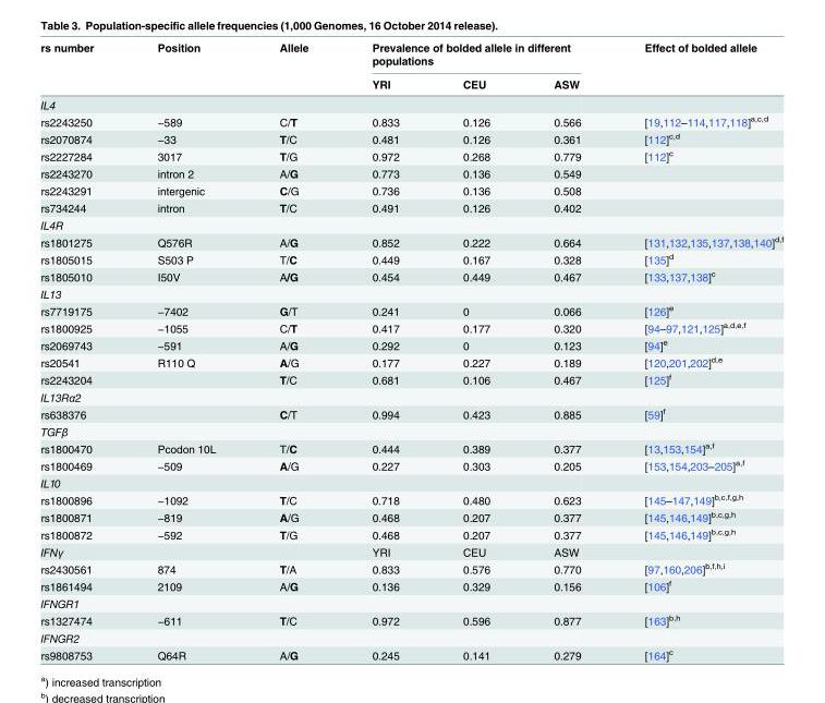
<table><thead><tr><td rowspan="2">rs number</td><td rowspan="2">Position</td><td rowspan="2">Allele</td><td colspan="3">Prevalence of bolded allele in different populations</td><td rowspan="2">Effect of bolded allele</td></tr><tr><td>YRI</td><td>CEU</td><td>ASW</td></tr></thead><tbody><tr><td colspan="7">IL4</td></tr><tr><td>rs2243250</td><td>−589</td><td>C/T</td><td>0.833</td><td>0.126</td><td>0.566</td><td>[19,112–114,117,118]<sup>a,c,d</sup></td></tr><tr><td>rs2070874</td><td>−33</td><td>T/C</td><td>0.481</td><td>0.126</td><td>0.361</td><td>[112]<sup>c,d</sup></td></tr><tr><td>rs2227284</td><td>3017</td><td>T/G</td><td>0.972</td><td>0.268</td><td>0.779</td><td>[112]<sup>c</sup></td></tr><tr><td>rs2243270</td><td>intron 2</td><td>A/G</td><td>0.773</td><td>0.136</td><td>0.549</td><td></td></tr><tr><td>rs2243291</td><td>intergenic</td><td>C/G</td><td>0.736</td><td>0.136</td><td>0.508</td><td></td></tr><tr><td>rs734244</td><td>intron</td><td>T/C</td><td>0.491</td><td>0.126</td><td>0.402</td><td></td></tr><tr><td colspan="7">IL4R</td></tr><tr><td>rs1801275</td><td>Q576R</td><td>A/G</td><td>0.852</td><td>0.222</td><td>0.664</td><td>[131,132,135,137,138,140]<sup>d,f</sup></td></tr><tr><td>rs1805015</td><td>S503 P</td><td>T/C</td><td>0.449</td><td>0.167</td><td>0.328</td><td>[135]<sup>d</sup></td></tr><tr><td>rs1805010</td><td>I50V</td><td>A/G</td><td>0.454</td><td>0.449</td><td>0.467</td><td>[133,137,138]<sup>c</sup></td></tr><tr><td colspan="7">IL13</td></tr><tr><td>rs7719175</td><td>−7402</td><td>G/T</td><td>0.241</td><td>0</td><td>0.066</td><td>[126]<sup>e</sup></td></tr><tr><td>rs1800925</td><td>−1055</td><td>C/T</td><td>0.417</td><td>0.177</td><td>0.320</td><td>[94–97,121,125]<sup>a,d,e,f</sup></td></tr><tr><td>rs2069743</td><td>−591</td><td>A/G</td><td>0.292</td><td>0</td><td>0.123</td><td>[94]<sup>e</sup></td></tr><tr><td>rs20541</td><td>R110 Q</td><td>A/G</td><td>0.177</td><td>0.227</td><td>0.189</td><td>[120,201,202]<sup>d,e</sup></td></tr><tr><td>rs2243204</td><td></td><td>T/C</td><td>0.681</td><td>0.106</td><td>0.467</td><td>[125]<sup>f</sup></td></tr><tr><td colspan="7">IL13Rα2</td></tr><tr><td>rs638376</td><td></td><td>C/T</td><td>0.994</td><td>0.423</td><td>0.885</td><td>[59]<sup>f</sup></td></tr><tr><td colspan="7">TGFβ</td></tr><tr><td>rs1800470</td><td>Pcodon 10L</td><td>T/C</td><td>0.444</td><td>0.389</td><td>0.377</td><td>[13,153,154]<sup>a,f</sup></td></tr><tr><td>rs1800469</td><td>−509</td><td>A/G</td><td>0.227</td><td>0.303</td><td>0.205</td><td>[153,154,203–205]<sup>a,f</sup></td></tr><tr><td colspan="7">IL10</td></tr><tr><td>rs1800896</td><td>−1092</td><td>T/C</td><td>0.718</td><td>0.480</td><td>0.623</td><td>[145–147,149]<sup>b,c,f,g,h</sup></td></tr><tr><td>rs1800871</td><td>−819</td><td>A/G</td><td>0.468</td><td>0.207</td><td>0.377</td><td>[145,146,149]<sup>b,c,g,h</sup></td></tr><tr><td>rs1800872</td><td>−592</td><td>T/G</td><td>0.468</td><td>0.207</td><td>0.377</td><td>[145,146,149]<sup>b,c,g,h</sup></td></tr><tr><td>IFNγ</td><td></td><td></td><td>YRI</td><td>CEU</td><td>ASW</td><td></td></tr><tr><td>rs2430561</td><td>874</td><td>T/A</td><td>0.833</td><td>0.576</td><td>0.770</td><td>[97,160,206]<sup>b,f,h,i</sup></td></tr><tr><td>rs1861494</td><td>2109</td><td>A/G</td><td>0.136</td><td>0.329</td><td>0.156</td><td>[106]<sup>f</sup></td></tr><tr><td colspan="7">IFNGR1</td></tr><tr><td>rs1327474</td><td>−611</td><td>T/C</td><td>0.972</td><td>0.596</td><td>0.877</td><td>[163]<sup>b,h</sup></td></tr><tr><td colspan="7">IFNGR2</td></tr><tr><td>rs9808753</td><td>Q64R</td><td>A/G</td><td>0.245</td><td>0.141</td><td>0.279</td><td>[164]<sup>c</sup></td></tr></tbody></table>